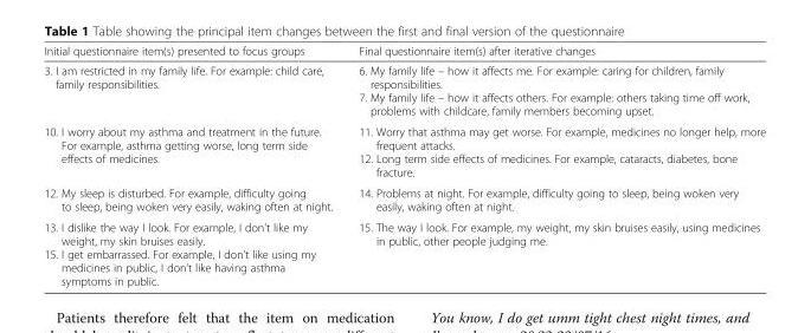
<table><thead><tr><td>Initial questionnaire item(s) presented to focus groups</td><td>Final questionnaire item(s) after iterative changes</td></tr></thead><tbody><tr><td>3. I am restricted in my family life. For example: child care, family responsibilities.</td><td>6. My family life – how it affects me. For example: caring for children, family responsibilities. 7. My family life – how it affects others. For example: others taking time off work, problems with childcare, family members becoming upset.</td></tr><tr><td>10. I worry about my asthma and treatment in the future. For example, asthma getting worse, long term side effects of medicines.</td><td>11. Worry that asthma may get worse. For example, medicines no longer help, more frequent attacks. 12. Long term side effects of medicines. For example, cataracts, diabetes, bone fracture.</td></tr><tr><td>12. My sleep is disturbed. For example, difficulty going to sleep, being woken very easily, waking often at night.</td><td>14. Problems at night. For example, difficulty going to sleep, being woken very easily, waking often at night.</td></tr><tr><td>13. I dislike the way I look. For example, I don’t like my weight, my skin bruises easily. 15. I get embarrassed. For example, I don’t like using my medicines in public, I don’t like having asthma symptoms in public.</td><td>15. The way I look. For example, my weight, my skin bruises easily, using medicines in public, other people judging me.</td></tr></tbody></table>